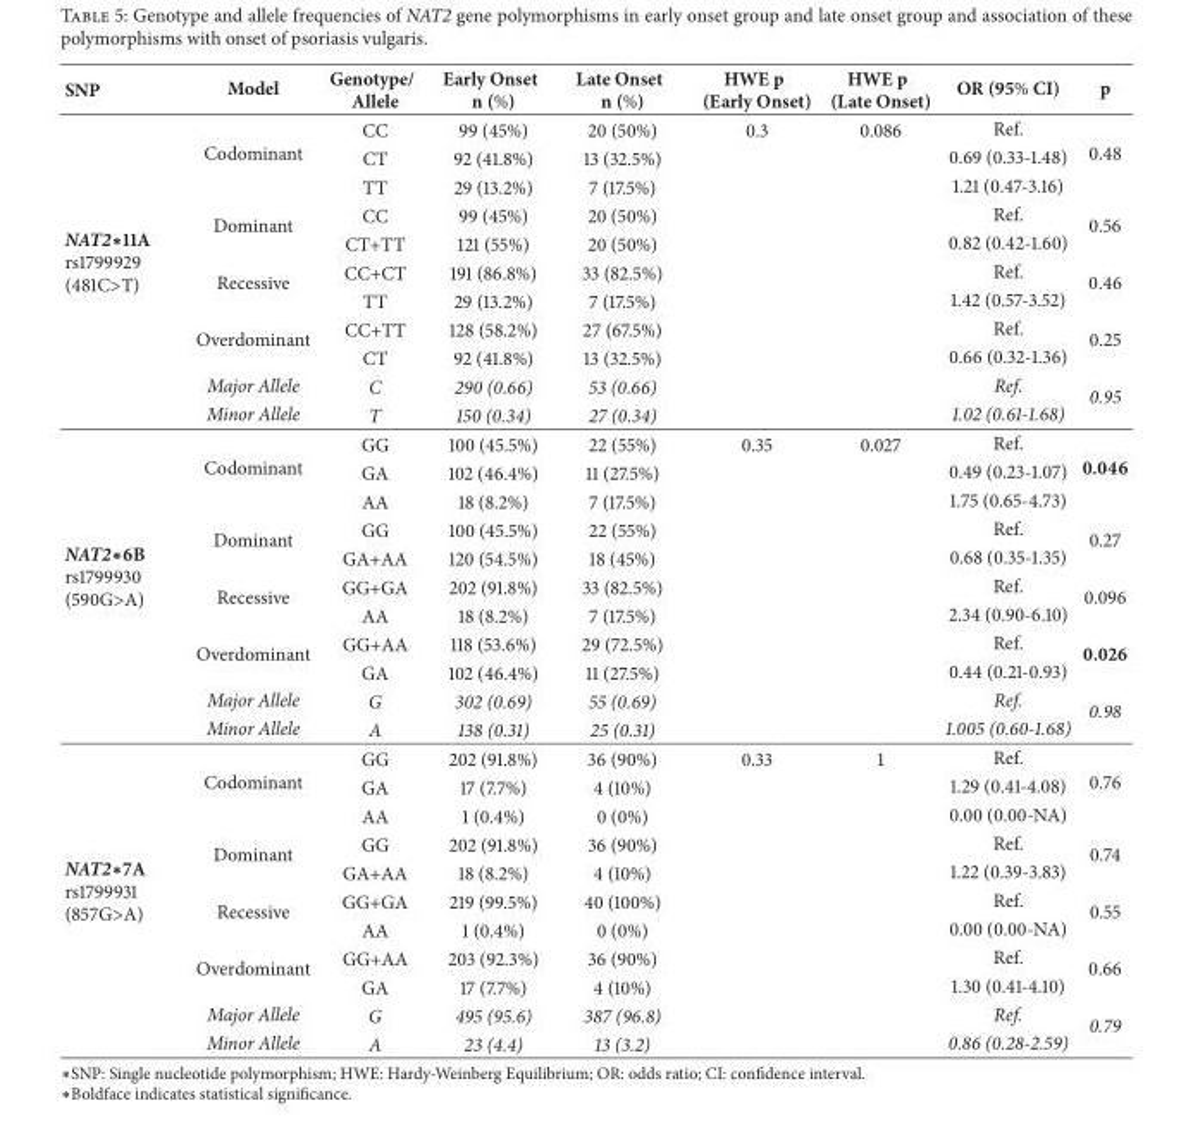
<table><thead><tr><td>SNP</td><td>Model</td><td>Genotype/ Allele</td><td>Early Onset n (%)</td><td>Late Onset n (%)</td><td>HWE p (Early Onset)</td><td>HWE p (Late Onset)</td><td>OR (95% CI)</td><td>p</td></tr></thead><tbody><tr><td rowspan="11">NAT2∗11A rs1799929 (481C&gt;T)</td><td rowspan="3">Codominant</td><td>CC</td><td>99 (45%)</td><td>20 (50%)</td><td>0.3</td><td>0.086</td><td>Ref.</td><td rowspan="3">0.48</td></tr><tr><td>CT</td><td>92 (41.8%)</td><td>13 (32.5%)</td><td></td><td></td><td>0.69 (0.33-1.48)</td></tr><tr><td>TT</td><td>29 (13.2%)</td><td>7 (17.5%)</td><td></td><td></td><td>1.21 (0.47-3.16)</td></tr><tr><td rowspan="2">Dominant</td><td>CC</td><td>99 (45%)</td><td>20 (50%)</td><td></td><td></td><td>Ref.</td><td rowspan="2">0.56</td></tr><tr><td>CT+TT</td><td>121 (55%)</td><td>20 (50%)</td><td></td><td></td><td>0.82 (0.42-1.60)</td></tr><tr><td rowspan="2">Recessive</td><td>CC+CT</td><td>191 (86.8%)</td><td>33 (82.5%)</td><td></td><td></td><td>Ref.</td><td rowspan="2">0.46</td></tr><tr><td>TT</td><td>29 (13.2%)</td><td>7 (17.5%)</td><td></td><td></td><td>1.42 (0.57-3.52)</td></tr><tr><td rowspan="2">Overdominant</td><td>CC+TT</td><td>128 (58.2%)</td><td>27 (67.5%)</td><td></td><td></td><td>Ref.</td><td rowspan="2">0.25</td></tr><tr><td>CT</td><td>92 (41.8%)</td><td>13 (32.5%)</td><td></td><td></td><td>0.66 (0.32-1.36)</td></tr><tr><td>Major Allele</td><td>C</td><td>290 (0.66)</td><td>53 (0.66)</td><td></td><td></td><td>Ref.</td><td rowspan="2">0.95</td></tr><tr><td>Minor Allele</td><td>T</td><td>150 (0.34)</td><td>27 (0.34)</td><td></td><td></td><td>1.02 (0.61-1.68)</td></tr><tr><td rowspan="11">NAT2∗6B rs1799930 (590G&gt;A)</td><td rowspan="3">Codominant</td><td>GG</td><td>100 (45.5%)</td><td>22 (55%)</td><td>0.35</td><td>0.027</td><td>Ref.</td><td rowspan="3">0.046</td></tr><tr><td>GA</td><td>102 (46.4%)</td><td>11 (27.5%)</td><td></td><td></td><td>0.49 (0.23-1.07)</td></tr><tr><td>AA</td><td>18 (8.2%)</td><td>7 (17.5%)</td><td></td><td></td><td>1.75 (0.65-4.73)</td></tr><tr><td rowspan="2">Dominant</td><td>GG</td><td>100 (45.5%)</td><td>22 (55%)</td><td></td><td></td><td>Ref.</td><td rowspan="2">0.27</td></tr><tr><td>GA+AA</td><td>120 (54.5%)</td><td>18 (45%)</td><td></td><td></td><td>0.68 (0.35-1.35)</td></tr><tr><td rowspan="2">Recessive</td><td>GG+GA</td><td>202 (91.8%)</td><td>33 (82.5%)</td><td></td><td></td><td>Ref.</td><td rowspan="2">0.096</td></tr><tr><td>AA</td><td>18 (8.2%)</td><td>7 (17.5%)</td><td></td><td></td><td>2.34 (0.90-6.10)</td></tr><tr><td rowspan="2">Overdominant</td><td>GG+AA</td><td>118 (53.6%)</td><td>29 (72.5%)</td><td></td><td></td><td>Ref.</td><td rowspan="2">0.026</td></tr><tr><td>GA</td><td>102 (46.4%)</td><td>11 (27.5%)</td><td></td><td></td><td>0.44 (0.21-0.93)</td></tr><tr><td>Major Allele</td><td>G</td><td>302 (0.69)</td><td>55 (0.69)</td><td></td><td></td><td>Ref.</td><td rowspan="2">0.98</td></tr><tr><td>Minor Allele</td><td>A</td><td>138 (0.31)</td><td>25 (0.31)</td><td></td><td></td><td>1.005 (0.60-1.68)</td></tr><tr><td rowspan="11">NAT2∗7A rs1799931 (857G&gt;A)</td><td rowspan="3">Codominant</td><td>GG</td><td>202 (91.8%)</td><td>36 (90%)</td><td>0.33</td><td>1</td><td>Ref.</td><td rowspan="3">0.76</td></tr><tr><td>GA</td><td>17 (7.7%)</td><td>4 (10%)</td><td></td><td></td><td>1.29 (0.41-4.08)</td></tr><tr><td>AA</td><td>1 (0.4%)</td><td>0 (0%)</td><td></td><td></td><td>0.00 (0.00-NA)</td></tr><tr><td rowspan="2">Dominant</td><td>GG</td><td>202 (91.8%)</td><td>36 (90%)</td><td></td><td></td><td>Ref.</td><td rowspan="2">0.74</td></tr><tr><td>GA+AA</td><td>18 (8.2%)</td><td>4 (10%)</td><td></td><td></td><td>1.22 (0.39-3.83)</td></tr><tr><td rowspan="2">Recessive</td><td>GG+GA</td><td>219 (99.5%)</td><td>40 (100%)</td><td></td><td></td><td>Ref.</td><td rowspan="2">0.55</td></tr><tr><td>AA</td><td>1 (0.4%)</td><td>0 (0%)</td><td></td><td></td><td>0.00 (0.00-NA)</td></tr><tr><td rowspan="2">Overdominant</td><td>GG+AA</td><td>203 (92.3%)</td><td>36 (90%)</td><td></td><td></td><td>Ref.</td><td rowspan="2">0.66</td></tr><tr><td>GA</td><td>17 (7.7%)</td><td>4 (10%)</td><td></td><td></td><td>1.30 (0.41-4.10)</td></tr><tr><td>Major Allele</td><td>G</td><td>495 (95.6)</td><td>387 (96.8)</td><td></td><td></td><td>Ref.</td><td rowspan="2">0.79</td></tr><tr><td>Minor Allele</td><td>A</td><td>23 (4.4)</td><td>13 (3.2)</td><td></td><td></td><td>0.86 (0.28-2.59)</td></tr></tbody></table>